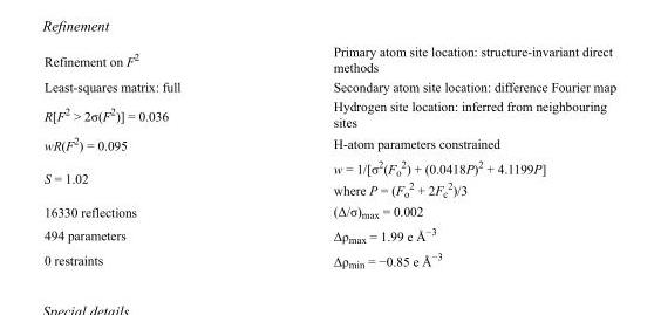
<table><tbody><tr><td>Refinement on F<sup>2</sup></td><td>Primary atom site location: structure-invariant direct methods</td></tr><tr><td>Least-squares matrix: full</td><td>Secondary atom site location: difference Fourier map</td></tr><tr><td>R[F<sup>2</sup> &gt; 2σ(F<sup>2</sup>)] = 0.036</td><td>Hydrogen site location: inferred from neighbouring sites</td></tr><tr><td>wR(F<sup>2</sup>) = 0.095</td><td>H-atom parameters constrained</td></tr><tr><td>S = 1.02</td><td>w = 1/[σ<sup>2</sup>(F<sub>o</sub> <sup>2</sup>) + (0.0418P)<sup>2</sup> + 4.1199P] where P = (F<sub>o</sub> <sup>2</sup> + 2F<sub>c</sub> <sup>2</sup>)/3</td></tr><tr><td>16330 reflections</td><td>(Δ/σ)<sub>max</sub> = 0.002</td></tr><tr><td>494 parameters</td><td>Δρ<sub>max</sub> = 1.99 e Å<sup>−3</sup></td></tr><tr><td>0 restraints</td><td>Δρ<sub>min</sub> = −0.85 e Å<sup>−3</sup></td></tr></tbody></table>